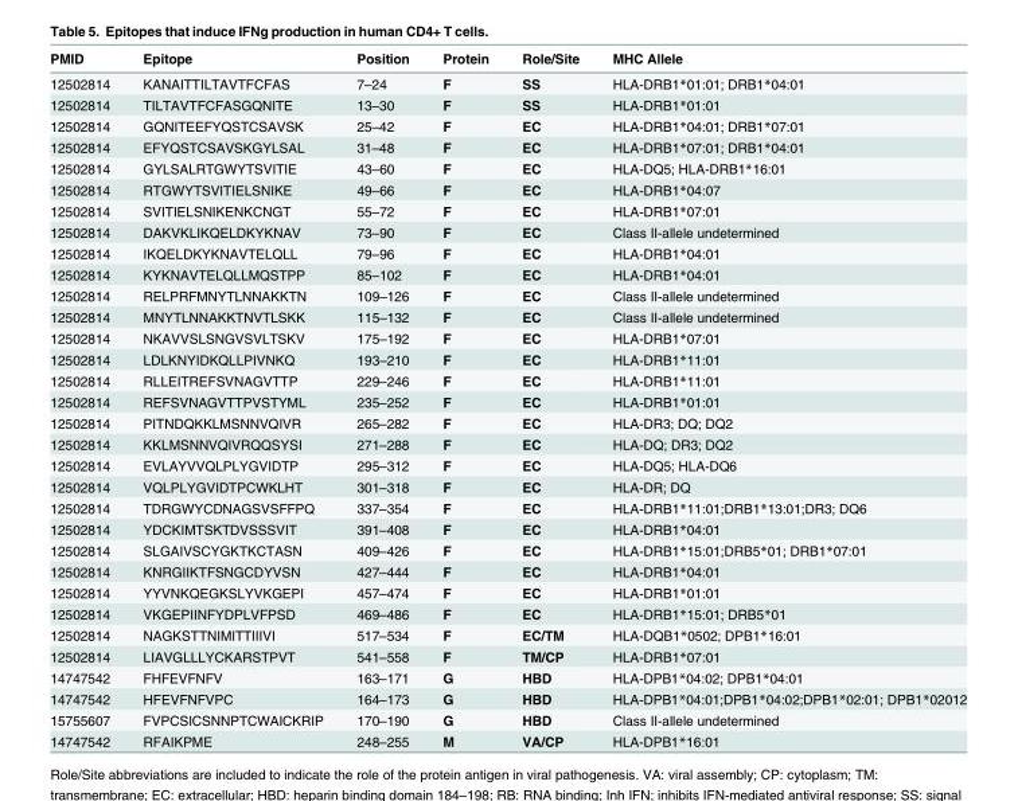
<table><thead><tr><td>PMID</td><td>Epitope</td><td>Position</td><td>Protein</td><td>Role/Site</td><td>MHC Allele</td></tr></thead><tbody><tr><td>12502814</td><td>KANAITTILTAVTFCFAS</td><td>7–24</td><td>F</td><td>SS</td><td>HLA-DRB1*01:01; DRB1*04:01</td></tr><tr><td>12502814</td><td>TILTAVTFCFASGQNITE</td><td>13–30</td><td>F</td><td>SS</td><td>HLA-DRB1*01:01</td></tr><tr><td>12502814</td><td>GQNITEEFYQSTCSAVSK</td><td>25–42</td><td>F</td><td>EC</td><td>HLA-DRB1*04:01; DRB1*07:01</td></tr><tr><td>12502814</td><td>EFYQSTCSAVSKGYLSAL</td><td>31–48</td><td>F</td><td>EC</td><td>HLA-DRB1*07:01; DRB1*04:01</td></tr><tr><td>12502814</td><td>GYLSALRTGWYTSVITIE</td><td>43–60</td><td>F</td><td>EC</td><td>HLA-DQ5; HLA-DRB1*16:01</td></tr><tr><td>12502814</td><td>RTGWYTSVITIELSNIKE</td><td>49–66</td><td>F</td><td>EC</td><td>HLA-DRB1*04:07</td></tr><tr><td>12502814</td><td>SVITIELSNIKENKCNGT</td><td>55–72</td><td>F</td><td>EC</td><td>HLA-DRB1*07:01</td></tr><tr><td>12502814</td><td>DAKVKLIKQELDKYKNAV</td><td>73–90</td><td>F</td><td>EC</td><td>Class II-allele undetermined</td></tr><tr><td>12502814</td><td>IKQELDKYKNAVTELQLL</td><td>79–96</td><td>F</td><td>EC</td><td>HLA-DRB1*04:01</td></tr><tr><td>12502814</td><td>KYKNAVTELQLLMQSTPP</td><td>85–102</td><td>F</td><td>EC</td><td>HLA-DRB1*04:01</td></tr><tr><td>12502814</td><td>RELPRFMNYTLNNAKKTN</td><td>109–126</td><td>F</td><td>EC</td><td>Class II-allele undetermined</td></tr><tr><td>12502814</td><td>MNYTLNNAKKTNVTLSKK</td><td>115–132</td><td>F</td><td>EC</td><td>Class II-allele undetermined</td></tr><tr><td>12502814</td><td>NKAVVSLSNGVSVLTSKV</td><td>175–192</td><td>F</td><td>EC</td><td>HLA-DRB1*07:01</td></tr><tr><td>12502814</td><td>LDLKNYIDKQLLPIVNKQ</td><td>193–210</td><td>F</td><td>EC</td><td>HLA-DRB1*11:01</td></tr><tr><td>12502814</td><td>RLLEITREFSVNAGVTTP</td><td>229–246</td><td>F</td><td>EC</td><td>HLA-DRB1*11:01</td></tr><tr><td>12502814</td><td>REFSVNAGVTTPVSTYML</td><td>235–252</td><td>F</td><td>EC</td><td>HLA-DRB1*01:01</td></tr><tr><td>12502814</td><td>PITNDQKKLMSNNVQIVR</td><td>265–282</td><td>F</td><td>EC</td><td>HLA-DR3; DQ; DQ2</td></tr><tr><td>12502814</td><td>KKLMSNNVQIVRQQSYSI</td><td>271–288</td><td>F</td><td>EC</td><td>HLA-DQ; DR3; DQ2</td></tr><tr><td>12502814</td><td>EVLAYVVQLPLYGVIDTP</td><td>295–312</td><td>F</td><td>EC</td><td>HLA-DQ5; HLA-DQ6</td></tr><tr><td>12502814</td><td>VQLPLYGVIDTPCWKLHT</td><td>301–318</td><td>F</td><td>EC</td><td>HLA-DR; DQ</td></tr><tr><td>12502814</td><td>TDRGWYCDNAGSVSFFPQ</td><td>337–354</td><td>F</td><td>EC</td><td>HLA-DRB1*11:01;DRB1*13:01;DR3; DQ6</td></tr><tr><td>12502814</td><td>YDCKIMTSKTDVSSSVIT</td><td>391–408</td><td>F</td><td>EC</td><td>HLA-DRB1*04:01</td></tr><tr><td>12502814</td><td>SLGAIVSCYGKTKCTASN</td><td>409–426</td><td>F</td><td>EC</td><td>HLA-DRB1*15:01;DRB5*01; DRB1*07:01</td></tr><tr><td>12502814</td><td>KNRGIIKTFSNGCDYVSN</td><td>427–444</td><td>F</td><td>EC</td><td>HLA-DRB1*04:01</td></tr><tr><td>12502814</td><td>YYVNKQEGKSLYVKGEPI</td><td>457–474</td><td>F</td><td>EC</td><td>HLA-DRB1*01:01</td></tr><tr><td>12502814</td><td>VKGEPIINFYDPLVFPSD</td><td>469–486</td><td>F</td><td>EC</td><td>HLA-DRB1*15:01; DRB5*01</td></tr><tr><td>12502814</td><td>NAGKSTTNIMITTIIIVI</td><td>517–534</td><td>F</td><td>EC/TM</td><td>HLA-DQB1*0502; DPB1*16:01</td></tr><tr><td>12502814</td><td>LIAVGLLLYCKARSTPVT</td><td>541–558</td><td>F</td><td>TM/CP</td><td>HLA-DRB1*07:01</td></tr><tr><td>14747542</td><td>FHFEVFNFV</td><td>163–171</td><td>G</td><td>HBD</td><td>HLA-DPB1*04:02; DPB1*04:01</td></tr><tr><td>14747542</td><td>HFEVFNFVPC</td><td>164–173</td><td>G</td><td>HBD</td><td>HLA-DPB1*04:01;DPB1*04:02;DPB1*02:01; DPB1*02012</td></tr><tr><td>15755607</td><td>FVPCSICSNNPTCWAICKRIP</td><td>170–190</td><td>G</td><td>HBD</td><td>Class II-allele undetermined</td></tr><tr><td>14747542</td><td>RFAIKPME</td><td>248–255</td><td>M</td><td>VA/CP</td><td>HLA-DPB1*16:01</td></tr></tbody></table>